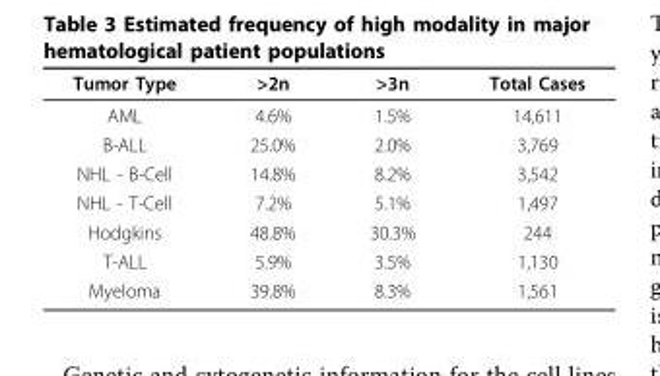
<table><thead><tr><td>Tumor Type</td><td>&gt;2n</td><td>&gt;3n</td><td>Total Cases</td></tr></thead><tbody><tr><td>AML</td><td>4.6%</td><td>1.5%</td><td>14,611</td></tr><tr><td>B-ALL</td><td>25.0%</td><td>2.0%</td><td>3,769</td></tr><tr><td>NHL - B-Cell</td><td>14.8%</td><td>8.2%</td><td>3,542</td></tr><tr><td>NHL - T-Cell</td><td>7.2%</td><td>5.1%</td><td>1,497</td></tr><tr><td>Hodgkins</td><td>48.8%</td><td>30.3%</td><td>244</td></tr><tr><td>T-ALL</td><td>5.9%</td><td>3.5%</td><td>1,130</td></tr><tr><td>Myeloma</td><td>39.8%</td><td>8.3%</td><td>1,561</td></tr></tbody></table>